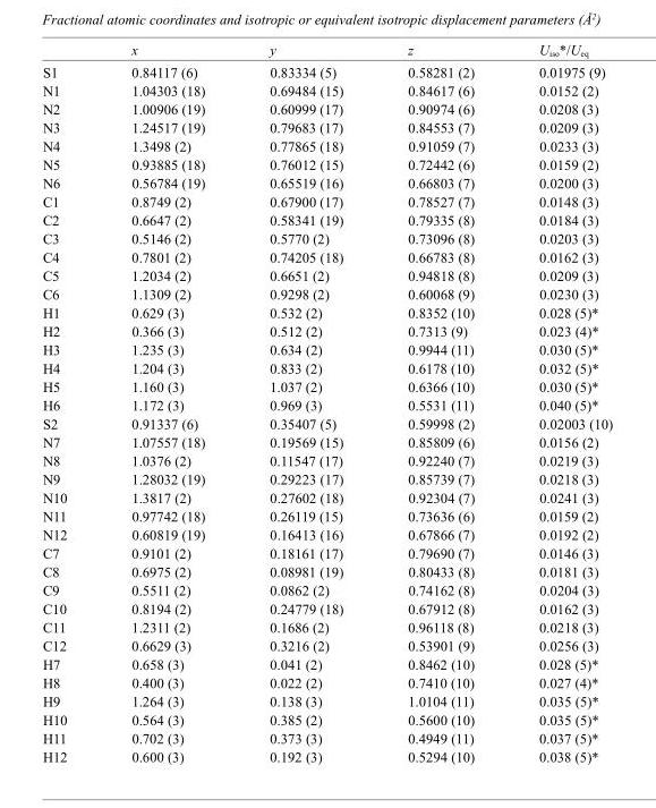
<table><thead><tr><td></td><td>x</td><td>y</td><td>z</td><td>U<sub>iso</sub>*/U<sub>eq</sub></td></tr></thead><tbody><tr><td>S1</td><td>0.84117 (6)</td><td>0.83334 (5)</td><td>0.58281 (2)</td><td>0.01975 (9)</td></tr><tr><td>N1</td><td>1.04303 (18)</td><td>0.69484 (15)</td><td>0.84617 (6)</td><td>0.0152 (2)</td></tr><tr><td>N2</td><td>1.00906 (19)</td><td>0.60999 (17)</td><td>0.90974 (6)</td><td>0.0208 (3)</td></tr><tr><td>N3</td><td>1.24517 (19)</td><td>0.79683 (17)</td><td>0.84553 (7)</td><td>0.0209 (3)</td></tr><tr><td>N4</td><td>1.3498 (2)</td><td>0.77865 (18)</td><td>0.91059 (7)</td><td>0.0233 (3)</td></tr><tr><td>N5</td><td>0.93885 (18)</td><td>0.76012 (15)</td><td>0.72442 (6)</td><td>0.0159 (2)</td></tr><tr><td>N6</td><td>0.56784 (19)</td><td>0.65519 (16)</td><td>0.66803 (7)</td><td>0.0200 (3)</td></tr><tr><td>C1</td><td>0.8749 (2)</td><td>0.67900 (17)</td><td>0.78527 (7)</td><td>0.0148 (3)</td></tr><tr><td>C2</td><td>0.6647 (2)</td><td>0.58341 (19)</td><td>0.79335 (8)</td><td>0.0184 (3)</td></tr><tr><td>C3</td><td>0.5146 (2)</td><td>0.5770 (2)</td><td>0.73096 (8)</td><td>0.0203 (3)</td></tr><tr><td>C4</td><td>0.7801 (2)</td><td>0.74205 (18)</td><td>0.66783 (8)</td><td>0.0162 (3)</td></tr><tr><td>C5</td><td>1.2034 (2)</td><td>0.6651 (2)</td><td>0.94818 (8)</td><td>0.0209 (3)</td></tr><tr><td>C6</td><td>1.1309 (2)</td><td>0.9298 (2)</td><td>0.60068 (9)</td><td>0.0230 (3)</td></tr><tr><td>H1</td><td>0.629 (3)</td><td>0.532 (2)</td><td>0.8352 (10)</td><td>0.028 (5)*</td></tr><tr><td>H2</td><td>0.366 (3)</td><td>0.512 (2)</td><td>0.7313 (9)</td><td>0.023 (4)*</td></tr><tr><td>H3</td><td>1.235 (3)</td><td>0.634 (2)</td><td>0.9944 (11)</td><td>0.030 (5)*</td></tr><tr><td>H4</td><td>1.204 (3)</td><td>0.833 (2)</td><td>0.6178 (10)</td><td>0.032 (5)*</td></tr><tr><td>H5</td><td>1.160 (3)</td><td>1.037 (2)</td><td>0.6366 (10)</td><td>0.030 (5)*</td></tr><tr><td>H6</td><td>1.172 (3)</td><td>0.969 (3)</td><td>0.5531 (11)</td><td>0.040 (5)*</td></tr><tr><td>S2</td><td>0.91337 (6)</td><td>0.35407 (5)</td><td>0.59998 (2)</td><td>0.02003 (10)</td></tr><tr><td>N7</td><td>1.07557 (18)</td><td>0.19569 (15)</td><td>0.85809 (6)</td><td>0.0156 (2)</td></tr><tr><td>N8</td><td>1.0376 (2)</td><td>0.11547 (17)</td><td>0.92240 (7)</td><td>0.0219 (3)</td></tr><tr><td>N9</td><td>1.28032 (19)</td><td>0.29223 (17)</td><td>0.85739 (7)</td><td>0.0218 (3)</td></tr><tr><td>N10</td><td>1.3817 (2)</td><td>0.27602 (18)</td><td>0.92304 (7)</td><td>0.0241 (3)</td></tr><tr><td>N11</td><td>0.97742 (18)</td><td>0.26119 (15)</td><td>0.73636 (6)</td><td>0.0159 (2)</td></tr><tr><td>N12</td><td>0.60819 (19)</td><td>0.16413 (16)</td><td>0.67866 (7)</td><td>0.0192 (2)</td></tr><tr><td>C7</td><td>0.9101 (2)</td><td>0.18161 (17)</td><td>0.79690 (7)</td><td>0.0146 (3)</td></tr><tr><td>C8</td><td>0.6975 (2)</td><td>0.08981 (19)</td><td>0.80433 (8)</td><td>0.0181 (3)</td></tr><tr><td>C9</td><td>0.5511 (2)</td><td>0.0862 (2)</td><td>0.74162 (8)</td><td>0.0204 (3)</td></tr><tr><td>C10</td><td>0.8194 (2)</td><td>0.24779 (18)</td><td>0.67912 (8)</td><td>0.0162 (3)</td></tr><tr><td>C11</td><td>1.2311 (2)</td><td>0.1686 (2)</td><td>0.96118 (8)</td><td>0.0218 (3)</td></tr><tr><td>C12</td><td>0.6629 (3)</td><td>0.3216 (2)</td><td>0.53901 (9)</td><td>0.0256 (3)</td></tr><tr><td>H7</td><td>0.658 (3)</td><td>0.041 (2)</td><td>0.8462 (10)</td><td>0.028 (5)*</td></tr><tr><td>H8</td><td>0.400 (3)</td><td>0.022 (2)</td><td>0.7410 (10)</td><td>0.027 (4)*</td></tr><tr><td>H9</td><td>1.264 (3)</td><td>0.138 (3)</td><td>1.0104 (11)</td><td>0.035 (5)*</td></tr><tr><td>H10</td><td>0.564 (3)</td><td>0.385 (2)</td><td>0.5600 (10)</td><td>0.035 (5)*</td></tr><tr><td>H11</td><td>0.702 (3)</td><td>0.373 (3)</td><td>0.4949 (11)</td><td>0.037 (5)*</td></tr><tr><td>H12</td><td>0.600 (3)</td><td>0.192 (3)</td><td>0.5294 (10)</td><td>0.038 (5)*</td></tr></tbody></table>